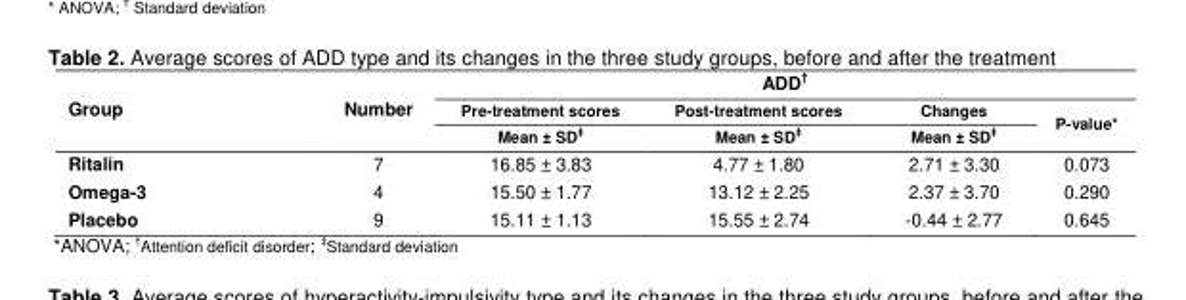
<table><thead><tr><td rowspan="3">Group</td><td rowspan="3">Number</td><td colspan="4">ADD†</td></tr><tr><td rowspan="2">Pre-treatment scores Mean ± SD‡</td><td rowspan="2">Post-treatment scores Mean ± SD‡</td><td rowspan="2">Changes Mean ± SD‡</td><td rowspan="2">P-value*</td></tr><tr></tr></thead><tbody><tr><td>Ritalin</td><td>7</td><td>16.85 ± 3.83</td><td>4.77 ± 1.80</td><td>2.71 ± 3.30</td><td>0.073</td></tr><tr><td>Omega-3</td><td>4</td><td>15.50 ± 1.77</td><td>13.12 ± 2.25</td><td>2.37 ± 3.70</td><td>0.290</td></tr><tr><td>Placebo</td><td>9</td><td>15.11 ± 1.13</td><td>15.55 ± 2.74</td><td>-0.44 ± 2.77</td><td>0.645</td></tr></tbody></table>